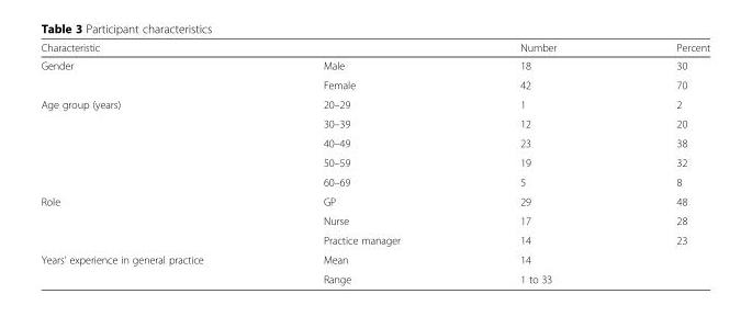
<table><thead><tr><td>Characteristic</td><td></td><td>Number</td><td>Percent</td></tr></thead><tbody><tr><td rowspan="2">Gender</td><td>Male</td><td>18</td><td>30</td></tr><tr><td>Female</td><td>42</td><td>70</td></tr><tr><td rowspan="5">Age group (years)</td><td>20–29</td><td>1</td><td>2</td></tr><tr><td>30–39</td><td>12</td><td>20</td></tr><tr><td>40–49</td><td>23</td><td>38</td></tr><tr><td>50–59</td><td>19</td><td>32</td></tr><tr><td>60–69</td><td>5</td><td>8</td></tr><tr><td rowspan="3">Role</td><td>GP</td><td>29</td><td>48</td></tr><tr><td>Nurse</td><td>17</td><td>28</td></tr><tr><td>Practice manager</td><td>14</td><td>23</td></tr><tr><td rowspan="2">Years’ experience in general practice</td><td>Mean</td><td colspan="2">14</td></tr><tr><td>Range</td><td colspan="2">1 to 33</td></tr></tbody></table>